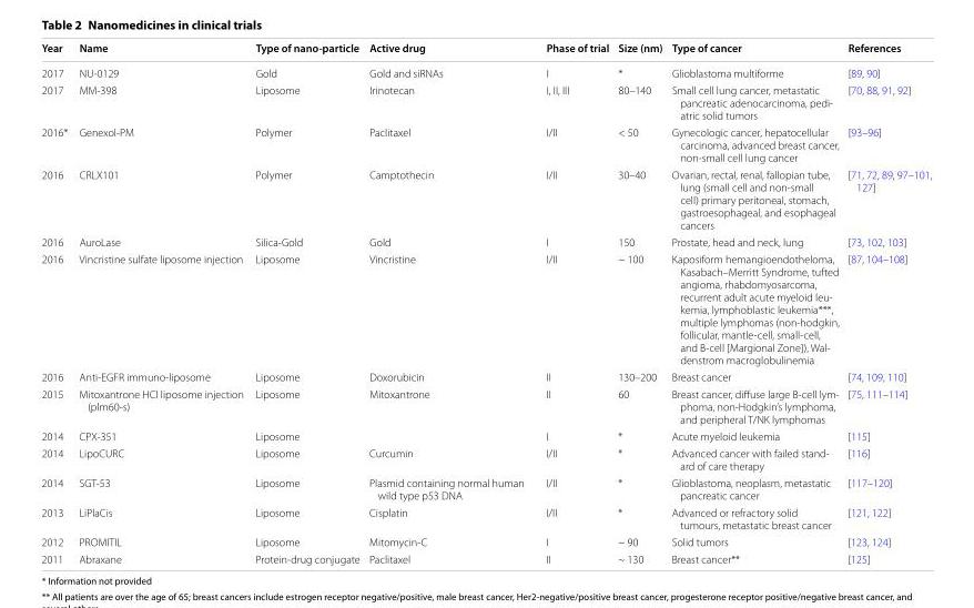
<table><thead><tr><td>Year</td><td>Name</td><td>Type of nano‑particle</td><td>Active drug</td><td>Phase of trial</td><td>Size (nm)</td><td>Type of cancer</td><td>References</td></tr></thead><tbody><tr><td>2017</td><td>NU‑0129</td><td>Gold</td><td>Gold and siRNAs</td><td>I</td><td>*</td><td>Glioblastoma multiforme</td><td>[89, 90]</td></tr><tr><td>2017</td><td>MM‑398</td><td>Liposome</td><td>Irinotecan</td><td>I, II, III</td><td>80–140</td><td>Small cell lung cancer, metastatic pancreatic adenocarcinoma, pedi‑ atric solid tumors</td><td>[70, 88, 91, 92]</td></tr><tr><td>2016*</td><td>Genexol‑PM</td><td>Polymer</td><td>Paclitaxel</td><td>I/II</td><td>&lt; 50</td><td>Gynecologic cancer, hepatocellular carcinoma, advanced breast cancer, non‑small cell lung cancer</td><td>[93–96]</td></tr><tr><td>2016</td><td>CRLX101</td><td>Polymer</td><td>Camptothecin</td><td>I/II</td><td>30–40</td><td>Ovarian, rectal, renal, fallopian tube, lung (small cell and non‑small cell) primary peritoneal, stomach, gastroesophageal, and esophageal cancers</td><td>[71, 72, 89, 97–101, 127]</td></tr><tr><td>2016</td><td>AuroLase</td><td>Silica‑Gold</td><td>Gold</td><td>I</td><td>150</td><td>Prostate, head and neck, lung</td><td>[73, 102, 103]</td></tr><tr><td>2016</td><td>Vincristine sulfate liposome injection</td><td>Liposome</td><td>Vincristine</td><td>I/II</td><td>~ 100</td><td>Kaposiform hemangioendotheloma, Kasabach–Merritt Syndrome, tufted angioma, rhabdomyosarcoma, recurrent adult acute myeloid leu‑ kemia, lymphoblastic leukemia***, multiple lymphomas (non‑hodgkin, follicular, mantle‑cell, small‑cell, and B‑cell [Margional Zone]), Wal‑ denstrom macroglobulinemia</td><td>[87, 104–108]</td></tr><tr><td>2016</td><td>Anti‑EGFR immuno‑liposome</td><td>Liposome</td><td>Doxorubicin</td><td>II</td><td>130–200</td><td>Breast cancer</td><td>[74, 109, 110]</td></tr><tr><td>2015</td><td>Mitoxantrone HCl liposome injection (plm60‑s)</td><td>Liposome</td><td>Mitoxantrone</td><td>II</td><td>60</td><td>Breast cancer, diffuse large B‑cell lym‑ phoma, non‑Hodgkin’s lymphoma, and peripheral T/NK lymphomas</td><td>[75, 111–114]</td></tr><tr><td>2014</td><td>CPX‑351</td><td>Liposome</td><td></td><td>I</td><td>*</td><td>Acute myeloid leukemia</td><td>[115]</td></tr><tr><td>2014</td><td>LipoCURC</td><td>Liposome</td><td>Curcumin</td><td>I/II</td><td>*</td><td>Advanced cancer with failed stand‑ ard of care therapy</td><td>[116]</td></tr><tr><td>2014</td><td>SGT‑53</td><td>Liposome</td><td>Plasmid containing normal human wild type p53 DNA</td><td>I/II</td><td>*</td><td>Glioblastoma, neoplasm, metastatic pancreatic cancer</td><td>[117–120]</td></tr><tr><td>2013</td><td>LiPlaCis</td><td>Liposome</td><td>Cisplatin</td><td>I/II</td><td>*</td><td>Advanced or refractory solid tumours, metastatic breast cancer</td><td>[121, 122]</td></tr><tr><td>2012</td><td>PROMITIL</td><td>Liposome</td><td>Mitomycin‑C</td><td>I</td><td>~ 90</td><td>Solid tumors</td><td>[123, 124]</td></tr><tr><td>2011</td><td>Abraxane</td><td>Protein‑drug conjugate</td><td>Paclitaxel</td><td>II</td><td>~ 130</td><td>Breast cancer**</td><td>[125]</td></tr></tbody></table>